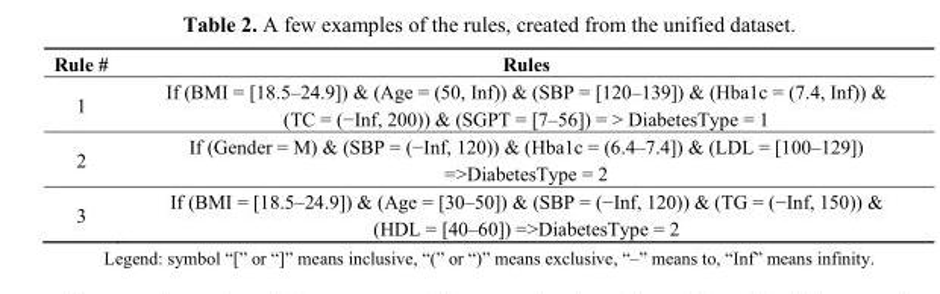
<table><thead><tr><td>Rule #</td><td>Rules</td></tr></thead><tbody><tr><td>1</td><td>If (BMI = [18.5–24.9]) &amp; (Age = (50, Inf)) &amp; (SBP = [120–139]) &amp; (Hba1c = (7.4, Inf)) &amp; (TC = (−Inf, 200)) &amp; (SGPT = [7–56]) = &gt; DiabetesType = 1</td></tr><tr><td>2</td><td>If (Gender = M) &amp; (SBP = (−Inf, 120)) &amp; (Hba1c = (6.4–7.4]) &amp; (LDL = [100–129]) =&gt;DiabetesType = 2</td></tr><tr><td>3</td><td>If (BMI = [18.5–24.9]) &amp; (Age = [30–50]) &amp; (SBP = (−Inf, 120)) &amp; (TG = (−Inf, 150)) &amp; (HDL = [40–60]) =&gt;DiabetesType = 2</td></tr></tbody></table>